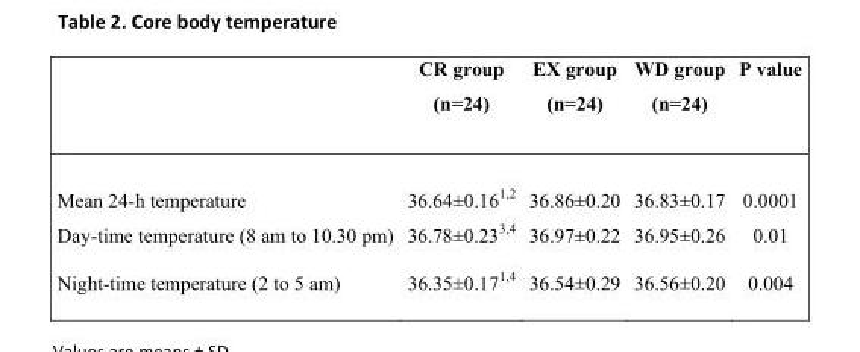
<table><thead><tr><td></td><td>CR group (n=24)</td><td>EX group (n=24)</td><td>WD group (n=24)</td><td>P value</td></tr></thead><tbody><tr><td>Mean 24-h temperature</td><td>36.64±0.16<sup>1,2</sup></td><td>36.86±0.20</td><td>36.83±0.17</td><td>0.0001</td></tr><tr><td>Day-time temperature (8 am to 10.30 pm)</td><td>36.78±0.23<sup>3,4</sup></td><td>36.97±0.22</td><td>36.95±0.26</td><td>0.01</td></tr><tr><td>Night-time temperature (2 to 5 am)</td><td>36.35±0.17<sup>1,4</sup></td><td>36.54±0.29</td><td>36.56±0.20</td><td>0.004</td></tr></tbody></table>